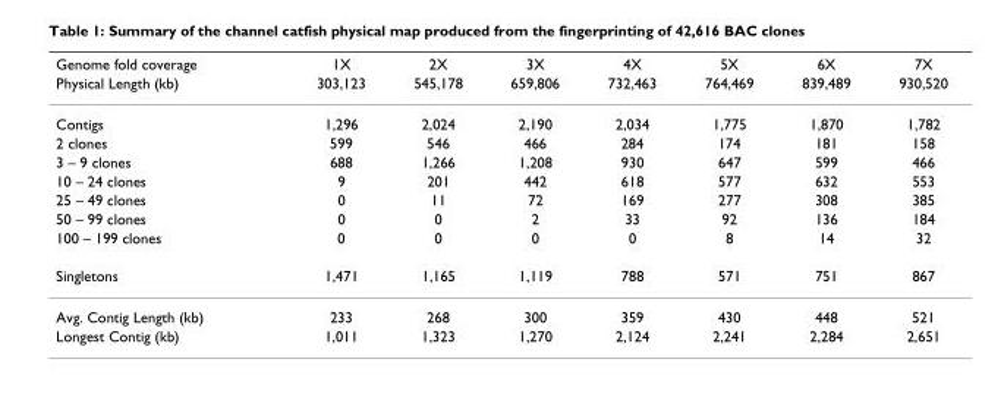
<table><thead><tr><td rowspan="2">Genome fold coverage Physical Length (kb)</td><td rowspan="2">1X 303,123</td><td rowspan="2">2X 545,178</td><td rowspan="2">3X 659,806</td><td rowspan="2">4X 732,463</td><td rowspan="2">5X 764,469</td><td rowspan="2">6X 839,489</td><td rowspan="2">7X 930,520</td></tr><tr></tr></thead><tbody><tr><td>Contigs</td><td>1,296</td><td>2,024</td><td>2,190</td><td>2,034</td><td>1,775</td><td>1,870</td><td>1,782</td></tr><tr><td>2 clones</td><td>599</td><td>546</td><td>466</td><td>284</td><td>174</td><td>181</td><td>158</td></tr><tr><td>3 – 9 clones</td><td>688</td><td>1,266</td><td>1,208</td><td>930</td><td>647</td><td>599</td><td>466</td></tr><tr><td>10 – 24 clones</td><td>9</td><td>201</td><td>442</td><td>618</td><td>577</td><td>632</td><td>553</td></tr><tr><td>25 – 49 clones</td><td>0</td><td>11</td><td>72</td><td>169</td><td>277</td><td>308</td><td>385</td></tr><tr><td>50 – 99 clones</td><td>0</td><td>0</td><td>2</td><td>33</td><td>92</td><td>136</td><td>184</td></tr><tr><td>100 – 199 clones</td><td>0</td><td>0</td><td>0</td><td>0</td><td>8</td><td>14</td><td>32</td></tr><tr><td>Singletons</td><td>1,471</td><td>1,165</td><td>1,119</td><td>788</td><td>571</td><td>751</td><td>867</td></tr><tr><td>Avg. Contig Length (kb)</td><td>233</td><td>268</td><td>300</td><td>359</td><td>430</td><td>448</td><td>521</td></tr><tr><td>Longest Contig (kb)</td><td>1,011</td><td>1,323</td><td>1,270</td><td>2,124</td><td>2,241</td><td>2,284</td><td>2,651</td></tr></tbody></table>